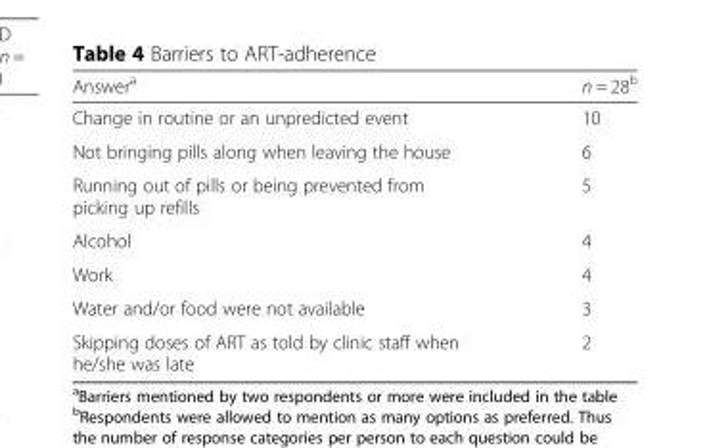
<table><thead><tr><td>Answer<sup>a</sup></td><td>n = 28<sup>b</sup></td></tr></thead><tbody><tr><td>Change in routine or an unpredicted event</td><td>10</td></tr><tr><td>Not bringing pills along when leaving the house</td><td>6</td></tr><tr><td>Running out of pills or being prevented from picking up refills</td><td>5</td></tr><tr><td>Alcohol</td><td>4</td></tr><tr><td>Work</td><td>4</td></tr><tr><td>Water and/or food were not available</td><td>3</td></tr><tr><td>Skipping doses of ART as told by clinic staff when he/she was late</td><td>2</td></tr></tbody></table>